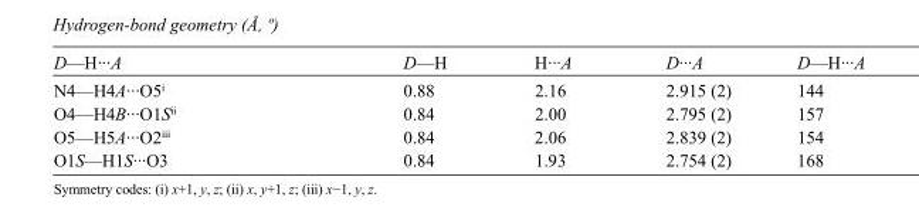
<table><tbody><tr><td>D—H···A</td><td>D—H</td><td>H···A</td><td>D···A</td><td>D—H···A</td></tr><tr><td>N4—H4A···O5<sup>i</sup></td><td>0.88</td><td>2.16</td><td>2.915 (2)</td><td>144</td></tr><tr><td>O4—H4B···O1S<sup>ii</sup></td><td>0.84</td><td>2.00</td><td>2.795 (2)</td><td>157</td></tr><tr><td>O5—H5A···O2<sup>iii</sup></td><td>0.84</td><td>2.06</td><td>2.839 (2)</td><td>154</td></tr><tr><td>O1S—H1S···O3</td><td>0.84</td><td>1.93</td><td>2.754 (2)</td><td>168</td></tr></tbody></table>